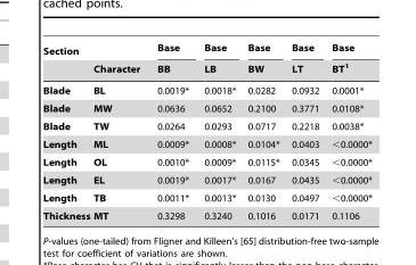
<table><thead><tr><td rowspan="2">Section</td><td rowspan="2">Character</td><td rowspan="2">Base BB</td><td rowspan="2">Base LB</td><td rowspan="2">Base BW</td><td rowspan="2">Base LT</td><td rowspan="2">Base BT<sup>1</sup></td></tr><tr></tr></thead><tbody><tr><td>Blade</td><td>BL</td><td>0.0019*</td><td>0.0018*</td><td>0.0282</td><td>0.0932</td><td>0.0001*</td></tr><tr><td>Blade</td><td>MW</td><td>0.0636</td><td>0.0652</td><td>0.2100</td><td>0.3771</td><td>0.0108*</td></tr><tr><td>Blade</td><td>TW</td><td>0.0264</td><td>0.0293</td><td>0.0717</td><td>0.2218</td><td>0.0038*</td></tr><tr><td>Length</td><td>ML</td><td>0.0009*</td><td>0.0008*</td><td>0.0104*</td><td>0.0403</td><td>&lt;0.0000*</td></tr><tr><td>Length</td><td>OL</td><td>0.0010*</td><td>0.0009*</td><td>0.0115*</td><td>0.0345</td><td>&lt;0.0000*</td></tr><tr><td>Length</td><td>EL</td><td>0.0019*</td><td>0.0017*</td><td>0.0167</td><td>0.0435</td><td>&lt;0.0000*</td></tr><tr><td>Length</td><td>TB</td><td>0.0011*</td><td>0.0013*</td><td>0.0130</td><td>0.0497</td><td>&lt;0.0000*</td></tr><tr><td>Thickness</td><td>MT</td><td>0.3298</td><td>0.3240</td><td>0.1016</td><td>0.0171</td><td>0.1106</td></tr></tbody></table>